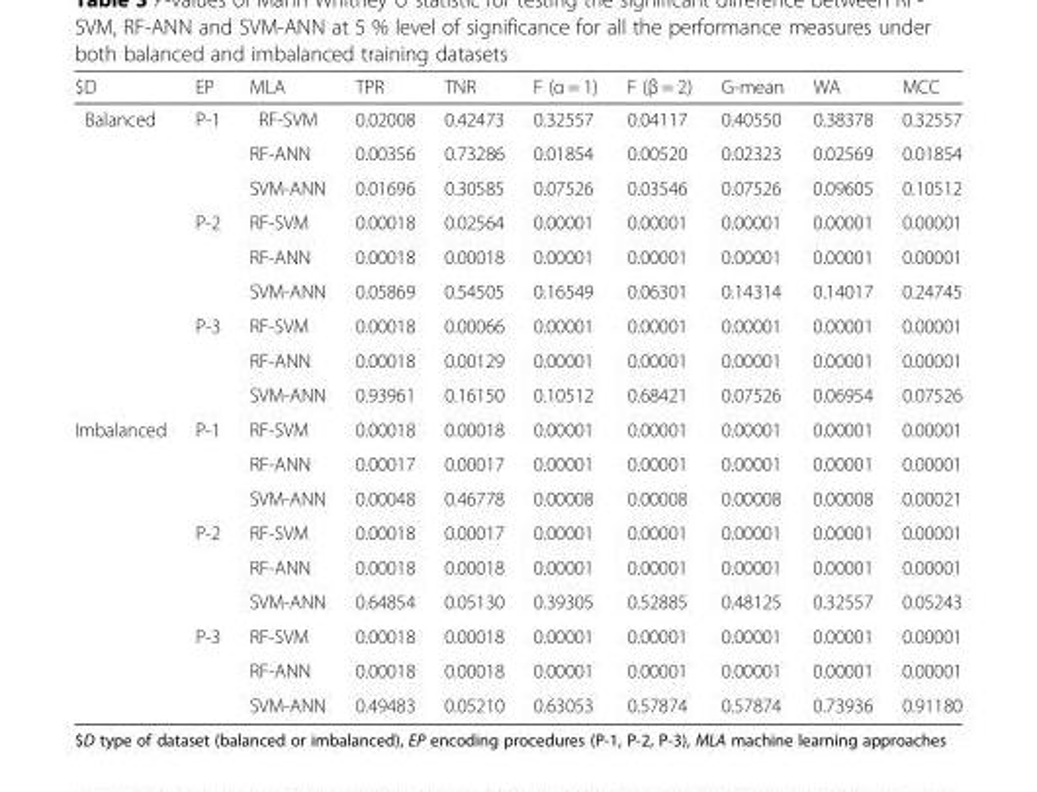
<table><thead><tr><td>$D</td><td>EP</td><td>MLA</td><td>TPR</td><td>TNR</td><td>F (α = 1)</td><td>F (β = 2)</td><td>G-mean</td><td>WA</td><td>MCC</td></tr></thead><tbody><tr><td rowspan="9">Balanced</td><td rowspan="3">P-1</td><td>RF-SVM</td><td>0.02008</td><td>0.42473</td><td>0.32557</td><td>0.04117</td><td>0.40550</td><td>0.38378</td><td>0.32557</td></tr><tr><td>RF-ANN</td><td>0.00356</td><td>0.73286</td><td>0.01854</td><td>0.00520</td><td>0.02323</td><td>0.02569</td><td>0.01854</td></tr><tr><td>SVM-ANN</td><td>0.01696</td><td>0.30585</td><td>0.07526</td><td>0.03546</td><td>0.07526</td><td>0.09605</td><td>0.10512</td></tr><tr><td rowspan="3">P-2</td><td>RF-SVM</td><td>0.00018</td><td>0.02564</td><td>0.00001</td><td>0.00001</td><td>0.00001</td><td>0.00001</td><td>0.00001</td></tr><tr><td>RF-ANN</td><td>0.00018</td><td>0.00018</td><td>0.00001</td><td>0.00001</td><td>0.00001</td><td>0.00001</td><td>0.00001</td></tr><tr><td>SVM-ANN</td><td>0.05869</td><td>0.54505</td><td>0.16549</td><td>0.06301</td><td>0.14314</td><td>0.14017</td><td>0.24745</td></tr><tr><td rowspan="3">P-3</td><td>RF-SVM</td><td>0.00018</td><td>0.00066</td><td>0.00001</td><td>0.00001</td><td>0.00001</td><td>0.00001</td><td>0.00001</td></tr><tr><td>RF-ANN</td><td>0.00018</td><td>0.00129</td><td>0.00001</td><td>0.00001</td><td>0.00001</td><td>0.00001</td><td>0.00001</td></tr><tr><td>SVM-ANN</td><td>0.93961</td><td>0.16150</td><td>0.10512</td><td>0.68421</td><td>0.07526</td><td>0.06954</td><td>0.07526</td></tr><tr><td rowspan="9">Imbalanced</td><td rowspan="3">P-1</td><td>RF-SVM</td><td>0.00018</td><td>0.00018</td><td>0.00001</td><td>0.00001</td><td>0.00001</td><td>0.00001</td><td>0.00001</td></tr><tr><td>RF-ANN</td><td>0.00017</td><td>0.00017</td><td>0.00001</td><td>0.00001</td><td>0.00001</td><td>0.00001</td><td>0.00001</td></tr><tr><td>SVM-ANN</td><td>0.00048</td><td>0.46778</td><td>0.00008</td><td>0.00008</td><td>0.00008</td><td>0.00008</td><td>0.00021</td></tr><tr><td rowspan="3">P-2</td><td>RF-SVM</td><td>0.00018</td><td>0.00017</td><td>0.00001</td><td>0.00001</td><td>0.00001</td><td>0.00001</td><td>0.00001</td></tr><tr><td>RF-ANN</td><td>0.00018</td><td>0.00018</td><td>0.00001</td><td>0.00001</td><td>0.00001</td><td>0.00001</td><td>0.00001</td></tr><tr><td>SVM-ANN</td><td>0.64854</td><td>0.05130</td><td>0.39305</td><td>0.52885</td><td>0.48125</td><td>0.32557</td><td>0.05243</td></tr><tr><td rowspan="3">P-3</td><td>RF-SVM</td><td>0.00018</td><td>0.00018</td><td>0.00001</td><td>0.00001</td><td>0.00001</td><td>0.00001</td><td>0.00001</td></tr><tr><td>RF-ANN</td><td>0.00018</td><td>0.00018</td><td>0.00001</td><td>0.00001</td><td>0.00001</td><td>0.00001</td><td>0.00001</td></tr><tr><td>SVM-ANN</td><td>0.49483</td><td>0.05210</td><td>0.63053</td><td>0.57874</td><td>0.57874</td><td>0.73936</td><td>0.91180</td></tr></tbody></table>